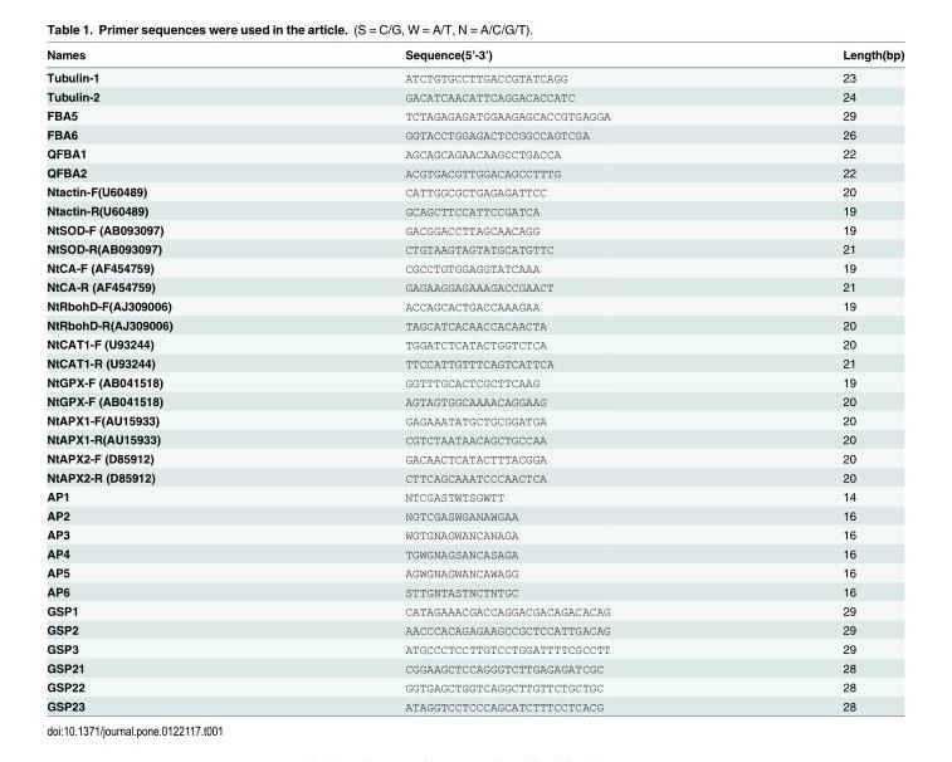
<table><thead><tr><td>Names</td><td>Sequence(5’-3’)</td><td>Length(bp)</td></tr></thead><tbody><tr><td>Tubulin-1</td><td>ATCTGTGCCTTGACCGTATCAGG</td><td>23</td></tr><tr><td>Tubulin-2</td><td>GACATCAACATTCAGGACACCATC</td><td>24</td></tr><tr><td>FBA5</td><td>TCTAGAGAGATGGAAGAGCACCGTGAGGA</td><td>29</td></tr><tr><td>FBA6</td><td>GGTACCTGGAGACTCCGGCCAGTCGA</td><td>26</td></tr><tr><td>QFBA1</td><td>AGCAGCAGAACAAGCCTGACCA</td><td>22</td></tr><tr><td>QFBA2</td><td>ACGTGACGTTGGACAGCCTTTG</td><td>22</td></tr><tr><td>Ntactin-F(U60489)</td><td>CATTGGCGCTGAGAGATTCC</td><td>20</td></tr><tr><td>Ntactin-R(U60489)</td><td>GCAGCTTCCATTCCGATCA</td><td>19</td></tr><tr><td>NtSOD-F (AB093097)</td><td>GACGGACCTTAGCAACAGG</td><td>19</td></tr><tr><td>NtSOD-R(AB093097)</td><td>CTGTAAGTAGTATGCATGTTC</td><td>21</td></tr><tr><td>NtCA-F (AF454759)</td><td>CGCCTGTGGAGGTATCAAA</td><td>19</td></tr><tr><td>NtCA-R (AF454759)</td><td>GAGAAGGAGAAAGACCGAACT</td><td>21</td></tr><tr><td>NtRbohD-F(AJ309006)</td><td>ACCAGCACTGACCAAAGAA</td><td>19</td></tr><tr><td>NtRbohD-R(AJ309006)</td><td>TAGCATCACAACCACAACTA</td><td>20</td></tr><tr><td>NtCAT1-F (U93244)</td><td>TGGATCTCATACTGGTCTCA</td><td>20</td></tr><tr><td>NtCAT1-R (U93244)</td><td>TTCCATTGTTTCAGTCATTCA</td><td>21</td></tr><tr><td>NtGPX-F (AB041518)</td><td>GGTTTGCACTCGCTTCAAG</td><td>19</td></tr><tr><td>NtGPX-F (AB041518)</td><td>AGTAGTGGCAAAACAGGAAG</td><td>20</td></tr><tr><td>NtAPX1-F(AU15933)</td><td>GAGAAATATGCTGCGGATGA</td><td>20</td></tr><tr><td>NtAPX1-R(AU15933)</td><td>CGTCTAATAACAGCTGCCAA</td><td>20</td></tr><tr><td>NtAPX2-F (D85912)</td><td>GACAACTCATACTTTACGGA</td><td>20</td></tr><tr><td>NtAPX2-R (D85912)</td><td>CTTCAGCAAATCCCAACTCA</td><td>20</td></tr><tr><td>AP1</td><td>NTCGASTWTSGWTT</td><td>14</td></tr><tr><td>AP2</td><td>NGTCGASWGANAWGAA</td><td>16</td></tr><tr><td>AP3</td><td>WGTGNAGWANCANAGA</td><td>16</td></tr><tr><td>AP4</td><td>TGWGNAGSANCASAGA</td><td>16</td></tr><tr><td>AP5</td><td>AGWGNAGWANCAWAGG</td><td>16</td></tr><tr><td>AP6</td><td>STTGNTASTNCTNTGC</td><td>16</td></tr><tr><td>GSP1</td><td>CATAGAAACGACCAGGACGACAGACACAG</td><td>29</td></tr><tr><td>GSP2</td><td>AACCCACAGAGAAGCCGCTCCATTGACAG</td><td>29</td></tr><tr><td>GSP3</td><td>ATGCCCTCCTTGTCCTGGATTTTCGCCTT</td><td>29</td></tr><tr><td>GSP21</td><td>CGGAAGCTCCAGGGTCTTGAGAGATCGC</td><td>28</td></tr><tr><td>GSP22</td><td>GGTGAGCTGGTCAGGCTTGTTCTGCTGC</td><td>28</td></tr><tr><td>GSP23</td><td>ATAGGTCCTCCCAGCATCTTTCCTCACG</td><td>28</td></tr></tbody></table>